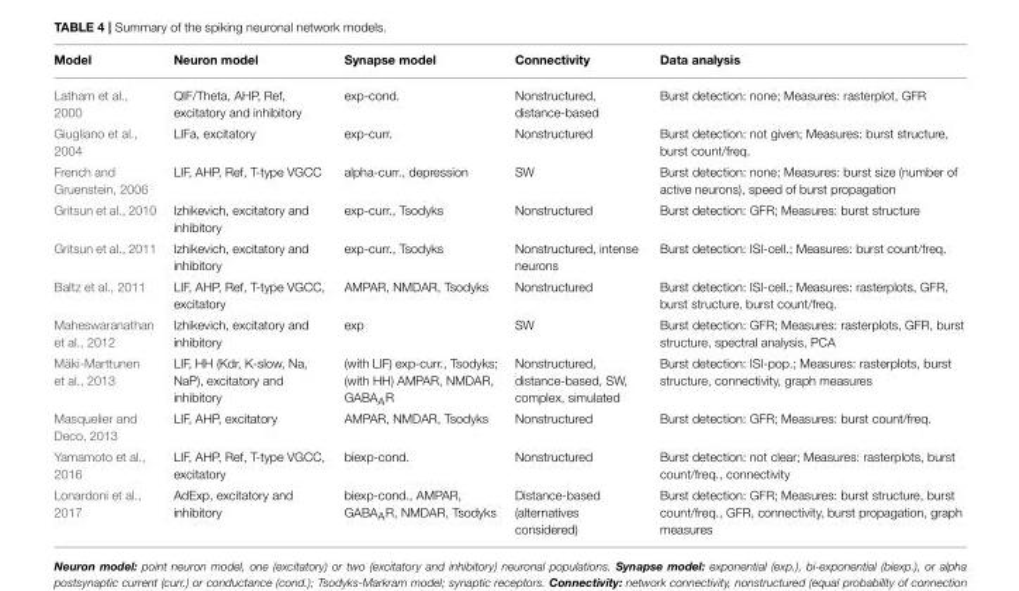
<table><thead><tr><td>Model</td><td>Neuron model</td><td>Synapse model</td><td>Connectivity</td><td>Data analysis</td></tr></thead><tbody><tr><td>Latham et al., 2000</td><td>QIF/Theta, AHP, Ref, excitatory and inhibitory</td><td>exp-cond.</td><td>Nonstructured, distance-based</td><td>Burst detection: none; Measures: rasterplot, GFR</td></tr><tr><td>Giugliano et al., 2004</td><td>LIFa, excitatory</td><td>exp-curr.</td><td>Nonstructured</td><td>Burst detection: not given; Measures: burst structure, burst count/freq.</td></tr><tr><td>French and Gruenstein, 2006</td><td>LIF, AHP, Ref, T-type VGCC</td><td>alpha-curr., depression</td><td>SW</td><td>Burst detection: none; Measures: burst size (number of active neurons), speed of burst propagation</td></tr><tr><td>Gritsun et al., 2010</td><td>Izhikevich, excitatory and inhibitory</td><td>exp-curr., Tsodyks</td><td>Nonstructured</td><td>Burst detection: GFR; Measures: burst structure</td></tr><tr><td>Gritsun et al., 2011</td><td>Izhikevich, excitatory and inhibitory</td><td>exp-curr., Tsodyks</td><td>Nonstructured, intense neurons</td><td>Burst detection: ISI-cell.; Measures: burst count/freq.</td></tr><tr><td>Baltz et al., 2011</td><td>LIF, AHP, Ref, T-type VGCC, excitatory</td><td>AMPAR, NMDAR, Tsodyks</td><td>Nonstructured</td><td>Burst detection: ISI-cell.; Measures: rasterplots, GFR, burst structure, burst count/freq.</td></tr><tr><td>Maheswaranathan et al., 2012</td><td>Izhikevich, excitatory and inhibitory</td><td>exp</td><td>SW</td><td>Burst detection: GFR; Measures: rasterplots, GFR, burst structure, spectral analysis, PCA</td></tr><tr><td>Mäki-Marttunen et al., 2013</td><td>LIF, HH (Kdr, K-slow, Na, NaP), excitatory and inhibitory</td><td>(with LIF) exp-curr., Tsodyks; (with HH) AMPAR, NMDAR, GABA<sub>A</sub>R</td><td>Nonstructured, distance-based, SW, complex, simulated</td><td>Burst detection: ISI-pop.; Measures: rasterplots, burst structure, connectivity, graph measures</td></tr><tr><td>Masquelier and Deco, 2013</td><td>LIF, AHP, excitatory</td><td>AMPAR, NMDAR, Tsodyks</td><td>Nonstructured</td><td>Burst detection: GFR; Measures: burst count/freq.</td></tr><tr><td>Yamamoto et al., 2016</td><td>LIF, AHP, Ref, T-type VGCC, excitatory</td><td>biexp-cond.</td><td>Nonstructured</td><td>Burst detection: not clear; Measures: rasterplots, burst count/freq., connectivity</td></tr><tr><td>Lonardoni et al., 2017</td><td>AdExp, excitatory and inhibitory</td><td>biexp-cond., AMPAR, GABA<sub>A</sub>R, NMDAR, Tsodyks</td><td>Distance-based (alternatives considered)</td><td>Burst detection: GFR; Measures: burst structure, burst count/freq., GFR, connectivity, burst propagation, graph measures</td></tr></tbody></table>